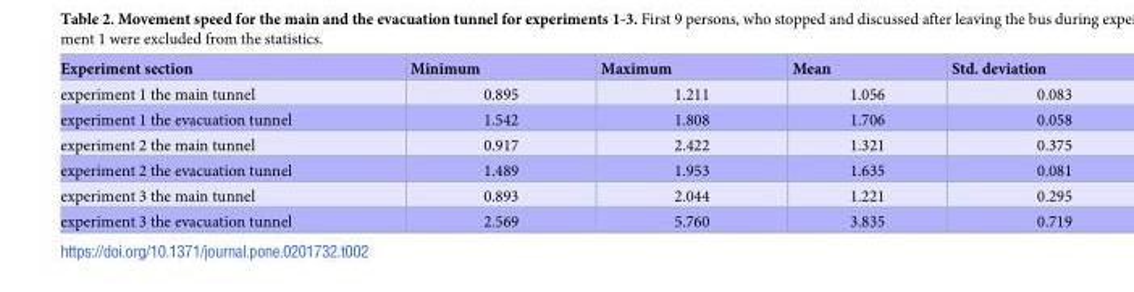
<table><thead><tr><td>Experiment section</td><td>Minimum</td><td>Maximum</td><td>Mean</td><td>Std. deviation</td></tr></thead><tbody><tr><td>experiment 1 the main tunnel</td><td>0.895</td><td>1.211</td><td>1.056</td><td>0.083</td></tr><tr><td>experiment 1 the evacuation tunnel</td><td>1.542</td><td>1.808</td><td>1.706</td><td>0.058</td></tr><tr><td>experiment 2 the main tunnel</td><td>0.917</td><td>2.422</td><td>1.321</td><td>0.375</td></tr><tr><td>experiment 2 the evacuation tunnel</td><td>1.489</td><td>1.953</td><td>1.635</td><td>0.081</td></tr><tr><td>experiment 3 the main tunnel</td><td>0.893</td><td>2.044</td><td>1.221</td><td>0.295</td></tr><tr><td>experiment 3 the evacuation tunnel</td><td>2.569</td><td>5.760</td><td>3.835</td><td>0.719</td></tr></tbody></table>